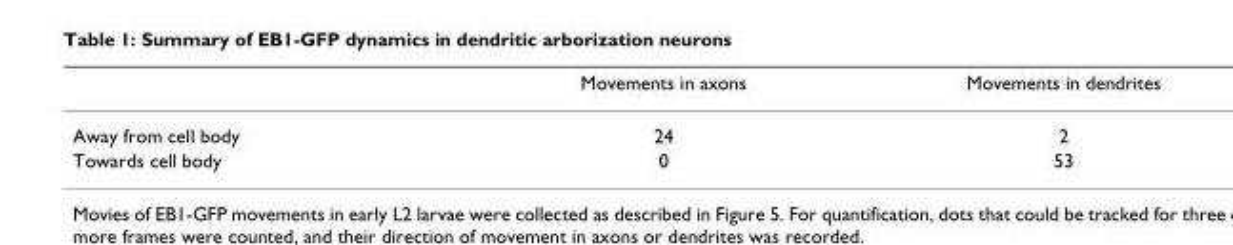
<table><thead><tr><td></td><td>Movements in axons</td><td>Movements in dendrites</td></tr></thead><tbody><tr><td>Away from cell body</td><td>24</td><td>2</td></tr><tr><td>Towards cell body</td><td>0</td><td>53</td></tr></tbody></table>